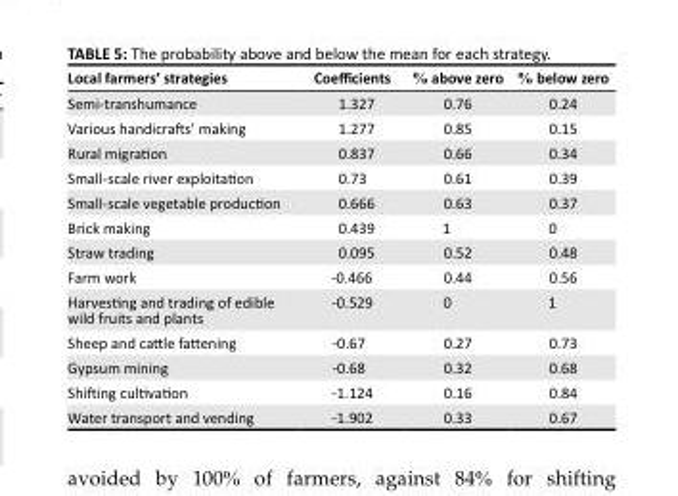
<table><thead><tr><td>Local farmers’ strategies</td><td>Coefficients</td><td>% above zero</td><td>% below zero</td></tr></thead><tbody><tr><td>Semi-transhumance</td><td>1.327</td><td>0.76</td><td>0.24</td></tr><tr><td>Various handicrafts’ making</td><td>1.277</td><td>0.85</td><td>0.15</td></tr><tr><td>Rural migration</td><td>0.837</td><td>0.66</td><td>0.34</td></tr><tr><td>Small-scale river exploitation</td><td>0.73</td><td>0.61</td><td>0.39</td></tr><tr><td>Small-scale vegetable production</td><td>0.666</td><td>0.63</td><td>0.37</td></tr><tr><td>Brick making</td><td>0.439</td><td>1</td><td>0</td></tr><tr><td>Straw trading</td><td>0.095</td><td>0.52</td><td>0.48</td></tr><tr><td>Farm work</td><td>-0.466</td><td>0.44</td><td>0.56</td></tr><tr><td>Harvesting and trading of edible wild fruits and plants</td><td>-0.529</td><td>0</td><td>1</td></tr><tr><td>Sheep and cattle fattening</td><td>-0.67</td><td>0.27</td><td>0.73</td></tr><tr><td>Gypsum mining</td><td>-0.68</td><td>0.32</td><td>0.68</td></tr><tr><td>Shifting cultivation</td><td>-1.124</td><td>0.16</td><td>0.84</td></tr><tr><td>Water transport and vending</td><td>-1.902</td><td>0.33</td><td>0.67</td></tr></tbody></table>